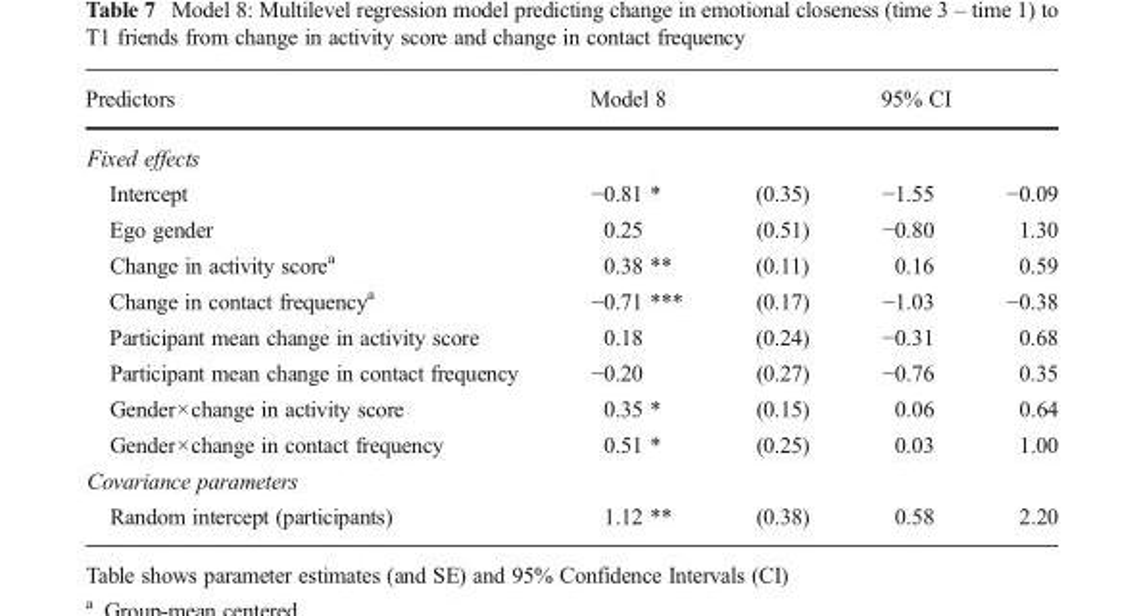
<table><thead><tr><td>Predictors</td><td colspan="2">Model 8</td><td colspan="2">95% CI</td></tr><tr><td colspan="5">Fixed effects</td></tr><tr><td>Intercept</td><td>−0.81 *</td><td>(0.35)</td><td>−1.55</td><td>−0.09</td></tr></thead><tbody><tr><td>Ego gender</td><td>0.25</td><td>(0.51)</td><td>−0.80</td><td>1.30</td></tr><tr><td>Change in activity score<sup>a</sup></td><td>0.38 **</td><td>(0.11)</td><td>0.16</td><td>0.59</td></tr><tr><td>Change in contact frequency<sup>a</sup></td><td>−0.71 ***</td><td>(0.17)</td><td>−1.03</td><td>−0.38</td></tr><tr><td>Participant mean change in activity score</td><td>0.18</td><td>(0.24)</td><td>−0.31</td><td>0.68</td></tr><tr><td>Participant mean change in contact frequency</td><td>−0.20</td><td>(0.27)</td><td>−0.76</td><td>0.35</td></tr><tr><td>Gender×change in activity score</td><td>0.35 *</td><td>(0.15)</td><td>0.06</td><td>0.64</td></tr><tr><td>Gender×change in contact frequency</td><td>0.51 *</td><td>(0.25)</td><td>0.03</td><td>1.00</td></tr><tr><td colspan="5">Covariance parameters</td></tr><tr><td>Random intercept (participants)</td><td>1.12 **</td><td>(0.38)</td><td>0.58</td><td>2.20</td></tr></tbody></table>